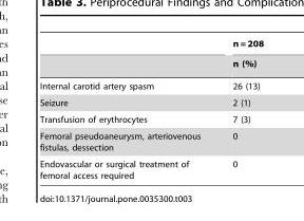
<table><thead><tr><td rowspan="2"></td><td rowspan="2">n = 208 n (%)</td></tr><tr></tr></thead><tbody><tr><td>Internal carotid artery spasm</td><td>26 (13)</td></tr><tr><td>Seizure</td><td>2 (1)</td></tr><tr><td>Transfusion of erythrocytes</td><td>7 (3)</td></tr><tr><td>Femoral pseudoaneurysm, arteriovenous fistulas, dessection</td><td>0</td></tr><tr><td>Endovascular or surgical treatment of femoral access required</td><td>0</td></tr></tbody></table>